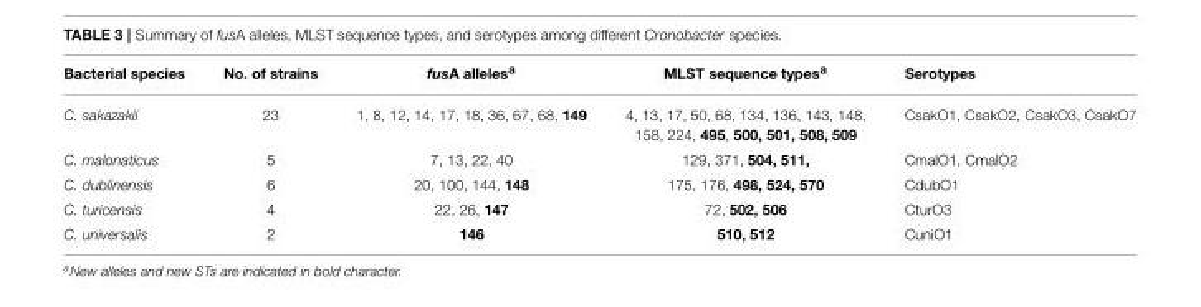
<table><thead><tr><td>Bacterial species</td><td>No. of strains</td><td>fusA alleles<sup>a</sup></td><td>MLST sequence types<sup>a</sup></td><td>Serotypes</td></tr></thead><tbody><tr><td>C. sakazakii</td><td>23</td><td>1, 8, 12, 14, 17, 18, 36, 67, 68, 149</td><td>4, 13, 17, 50, 68, 134, 136, 143, 148, 158, 224, 495, 500, 501, 508, 509</td><td>CsakO1, CsakO2, CsakO3, CsakO7</td></tr><tr><td>C. malonaticus</td><td>5</td><td>7, 13, 22, 40</td><td>129, 371, 504, 511,</td><td>CmalO1, CmalO2</td></tr><tr><td>C. dublinensis</td><td>6</td><td>20, 100, 144, 148</td><td>175, 176, 498, 524, 570</td><td>CdubO1</td></tr><tr><td>C. turicensis</td><td>4</td><td>22, 26, 147</td><td>72, 502, 506</td><td>CturO3</td></tr><tr><td>C. universalis</td><td>2</td><td>146</td><td>510, 512</td><td>CuniO1</td></tr></tbody></table>